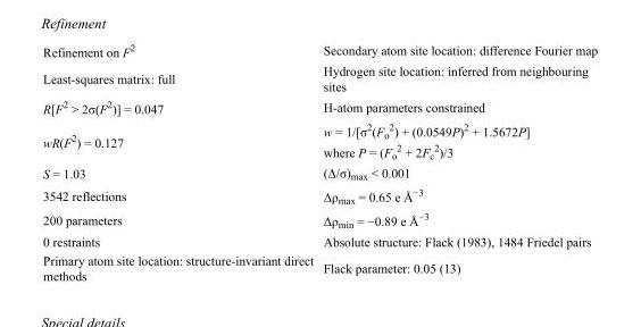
<table><tbody><tr><td>Refinement on F<sup>2</sup></td><td>Secondary atom site location: difference Fourier map</td></tr><tr><td>Least-squares matrix: full</td><td>Hydrogen site location: inferred from neighbouring sites</td></tr><tr><td>R[F<sup>2</sup> &gt; 2σ(F<sup>2</sup>)] = 0.047</td><td>H-atom parameters constrained</td></tr><tr><td>wR(F<sup>2</sup>) = 0.127</td><td>w = 1/[σ<sup>2</sup>(F<sub>o</sub> <sup>2</sup>) + (0.0549P)<sup>2</sup> + 1.5672P] where P = (F<sub>o</sub> <sup>2</sup> + 2F<sub>c</sub> <sup>2</sup>)/3</td></tr><tr><td>S = 1.03</td><td>(Δ/σ)<sub>max</sub> &lt; 0.001</td></tr><tr><td>3542 reflections</td><td>Δρ<sub>max</sub> = 0.65 e Å<sup>−3</sup></td></tr><tr><td>200 parameters</td><td>Δρ<sub>min</sub> = −0.89 e Å<sup>−3</sup></td></tr><tr><td>0 restraints</td><td>Absolute structure: Flack (1983), 1484 Friedel pairs</td></tr><tr><td>Primary atom site location: structure-invariant direct methods</td><td>Flack parameter: 0.05 (13)</td></tr></tbody></table>